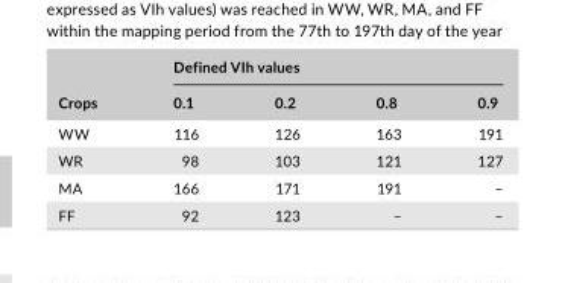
<table><thead><tr><td rowspan="2">Crops</td><td colspan="4">Defined VIh values</td></tr><tr><td>0.1</td><td>0.2</td><td>0.8</td><td>0.9</td></tr></thead><tbody><tr><td>WW</td><td>116</td><td>126</td><td>163</td><td>191</td></tr><tr><td>WR</td><td>98</td><td>103</td><td>121</td><td>127</td></tr><tr><td>MA</td><td>166</td><td>171</td><td>191</td><td>–</td></tr><tr><td>FF</td><td>92</td><td>123</td><td>–</td><td>–</td></tr></tbody></table>